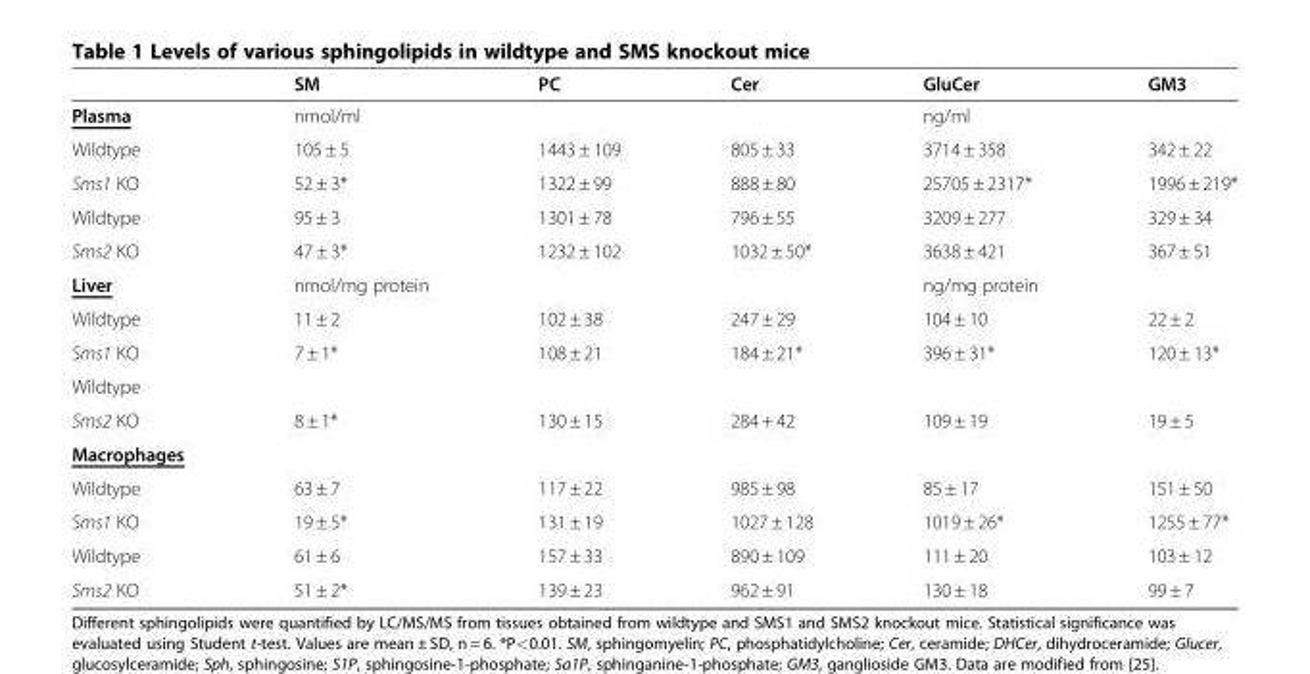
<table><thead><tr><td></td><td>SM</td><td>PC</td><td>Cer</td><td>GluCer</td><td>GM3</td></tr></thead><tbody><tr><td>Plasma</td><td>nmol/ml</td><td></td><td></td><td>ng/ml</td><td></td></tr><tr><td>Wildtype</td><td>105 ± 5</td><td>1443 ± 109</td><td>805 ± 33</td><td>3714 ± 358</td><td>342 ± 22</td></tr><tr><td>Sms1 KO</td><td>52 ± 3*</td><td>1322 ± 99</td><td>888 ± 80</td><td>25705 ± 2317*</td><td>1996 ± 219*</td></tr><tr><td>Wildtype</td><td>95 ± 3</td><td>1301 ± 78</td><td>796 ± 55</td><td>3209 ± 277</td><td>329 ± 34</td></tr><tr><td>Sms2 KO</td><td>47 ± 3*</td><td>1232 ± 102</td><td>1032 ± 50*</td><td>3638 ± 421</td><td>367 ± 51</td></tr><tr><td>Liver</td><td>nmol/mg protein</td><td></td><td></td><td>ng/mg protein</td><td></td></tr><tr><td>Wildtype</td><td>11 ± 2</td><td>102 ± 38</td><td>247 ± 29</td><td>104 ± 10</td><td>22 ± 2</td></tr><tr><td>Sms1 KO</td><td>7 ± 1*</td><td>108 ± 21</td><td>184 ± 21*</td><td>396 ± 31*</td><td>120 ± 13*</td></tr><tr><td colspan="6">Wildtype</td></tr><tr><td>Sms2 KO</td><td>8 ± 1*</td><td>130 ± 15</td><td>284 + 42</td><td>109 ± 19</td><td>19 ± 5</td></tr><tr><td colspan="6">Macrophages</td></tr><tr><td>Wildtype</td><td>63 ± 7</td><td>117 ± 22</td><td>985 ± 98</td><td>85 ± 17</td><td>151 ± 50</td></tr><tr><td>Sms1 KO</td><td>19 ± 5*</td><td>131 ± 19</td><td>1027 ± 128</td><td>1019 ± 26*</td><td>1255 ± 77*</td></tr><tr><td>Wildtype</td><td>61 ± 6</td><td>157 ± 33</td><td>890 ± 109</td><td>111 ± 20</td><td>103 ± 12</td></tr><tr><td>Sms2 KO</td><td>51 ± 2*</td><td>139 ± 23</td><td>962 ± 91</td><td>130 ± 18</td><td>99 ± 7</td></tr></tbody></table>